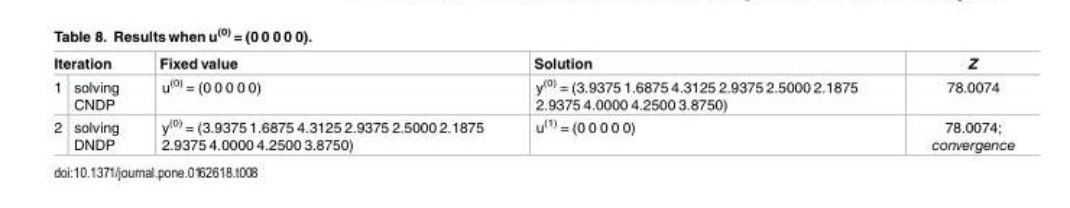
<table><thead><tr><td colspan="2">Iteration</td><td rowspan="2">Fixed value u<sup>(0)</sup> = (0 0 0 0 0)</td><td rowspan="2">Solution y<sup>(0)</sup> = (3.9375 1.6875 4.3125 2.9375 2.5000 2.1875 2.9375 4.0000 4.2500 3.8750)</td><td rowspan="2">Z 78.0074</td></tr><tr><td>1</td><td>solving CNDP</td></tr></thead><tbody><tr><td>2</td><td>solving DNDP</td><td>y<sup>(0)</sup> = (3.9375 1.6875 4.3125 2.9375 2.5000 2.1875 2.9375 4.0000 4.2500 3.8750)</td><td>u<sup>(1)</sup> = (0 0 0 0 0)</td><td>78.0074; convergence</td></tr></tbody></table>